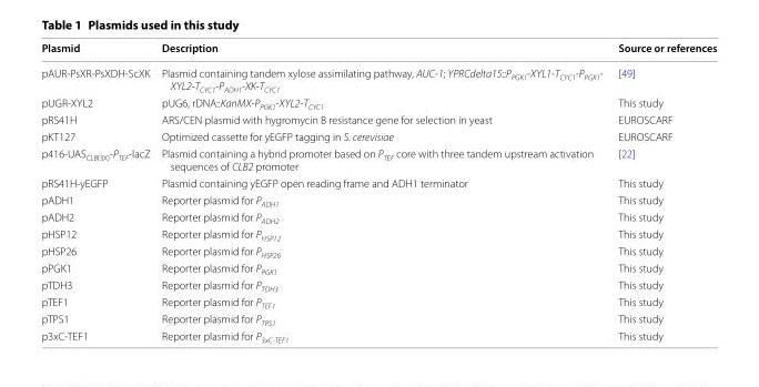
<table><thead><tr><td>Plasmid</td><td>Description</td><td>Source or references</td></tr></thead><tbody><tr><td>pAUR‑PsXR‑PsXDH‑ScXK</td><td>Plasmid containing tandem xylose assimilating pathway, AUC‑1; YPRCdelta15::P<sub>PGK1</sub>‑XYL1‑T<sub>CYC1</sub>‑P<sub>PGK1</sub>‑ XYL2‑T<sub>CYC1</sub>‑P<sub>ADH1</sub>‑XK‑T<sub>CYC1</sub></td><td>[49]</td></tr><tr><td>pUGR‑XYL2</td><td>pUG6, rDNA::KanMX‑P<sub>PGK1</sub>‑XYL2‑T<sub>CYC1</sub></td><td>This study</td></tr><tr><td>pRS41H</td><td>ARS/CEN plasmid with hygromycin B resistance gene for selection in yeast</td><td>EUROSCARF</td></tr><tr><td>pKT127</td><td>Optimized cassette for yEGFP tagging in S. cerevisiae</td><td>EUROSCARF</td></tr><tr><td>p416‑UAS<sub>CLB(3X)</sub>‑P<sub>TEF</sub>‑lacZ</td><td>Plasmid containing a hybrid promoter based on P<sub>TEF</sub> core with three tandem upstream activation sequences of CLB2 promoter</td><td>[22]</td></tr><tr><td>pRS41H‑yEGFP</td><td>Plasmid containing yEGFP open reading frame and ADH1 terminator</td><td>This study</td></tr><tr><td>pADH1</td><td>Reporter plasmid for P<sub>ADH1</sub></td><td>This study</td></tr><tr><td>pADH2</td><td>Reporter plasmid for P<sub>ADH2</sub></td><td>This study</td></tr><tr><td>pHSP12</td><td>Reporter plasmid for P<sub>HSP12</sub></td><td>This study</td></tr><tr><td>pHSP26</td><td>Reporter plasmid for P<sub>HSP26</sub></td><td>This study</td></tr><tr><td>pPGK1</td><td>Reporter plasmid for P<sub>PGK1</sub></td><td>This study</td></tr><tr><td>pTDH3</td><td>Reporter plasmid for P<sub>TDH3</sub></td><td>This study</td></tr><tr><td>pTEF1</td><td>Reporter plasmid for P<sub>TEF1</sub></td><td>This study</td></tr><tr><td>pTPS1</td><td>Reporter plasmid for P<sub>TPS1</sub></td><td>This study</td></tr><tr><td>p3xC‑TEF1</td><td>Reporter plasmid for P<sub>3xC‑TEF1</sub></td><td>This study</td></tr></tbody></table>